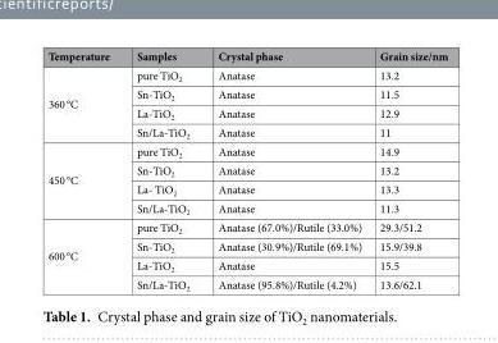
<table><thead><tr><td>Temperature</td><td>Samples</td><td>Crystal phase</td><td>Grain size/nm</td></tr></thead><tbody><tr><td rowspan="4">360 °C</td><td>pure TiO<sub>2</sub></td><td>Anatase</td><td>13.2</td></tr><tr><td>Sn-TiO<sub>2</sub></td><td>Anatase</td><td>11.5</td></tr><tr><td>La-TiO<sub>2</sub></td><td>Anatase</td><td>12.9</td></tr><tr><td>Sn/La-TiO<sub>2</sub></td><td>Anatase</td><td>11</td></tr><tr><td rowspan="4">450 °C</td><td>pure TiO<sub>2</sub></td><td>Anatase</td><td>14.9</td></tr><tr><td>Sn-TiO<sub>2</sub></td><td>Anatase</td><td>13.2</td></tr><tr><td>La- TiO<sub>2</sub></td><td>Anatase</td><td>13.3</td></tr><tr><td>Sn/La-TiO<sub>2</sub></td><td>Anatase</td><td>11.3</td></tr><tr><td rowspan="4">600 °C</td><td>pure TiO<sub>2</sub></td><td>Anatase (67.0%)/Rutile (33.0%)</td><td>29.3/51.2</td></tr><tr><td>Sn-TiO<sub>2</sub></td><td>Anatase (30.9%)/Rutile (69.1%)</td><td>15.9/39.8</td></tr><tr><td>La-TiO<sub>2</sub></td><td>Anatase</td><td>15.5</td></tr><tr><td>Sn/La-TiO<sub>2</sub></td><td>Anatase (95.8%)/Rutile (4.2%)</td><td>13.6/62.1</td></tr></tbody></table>